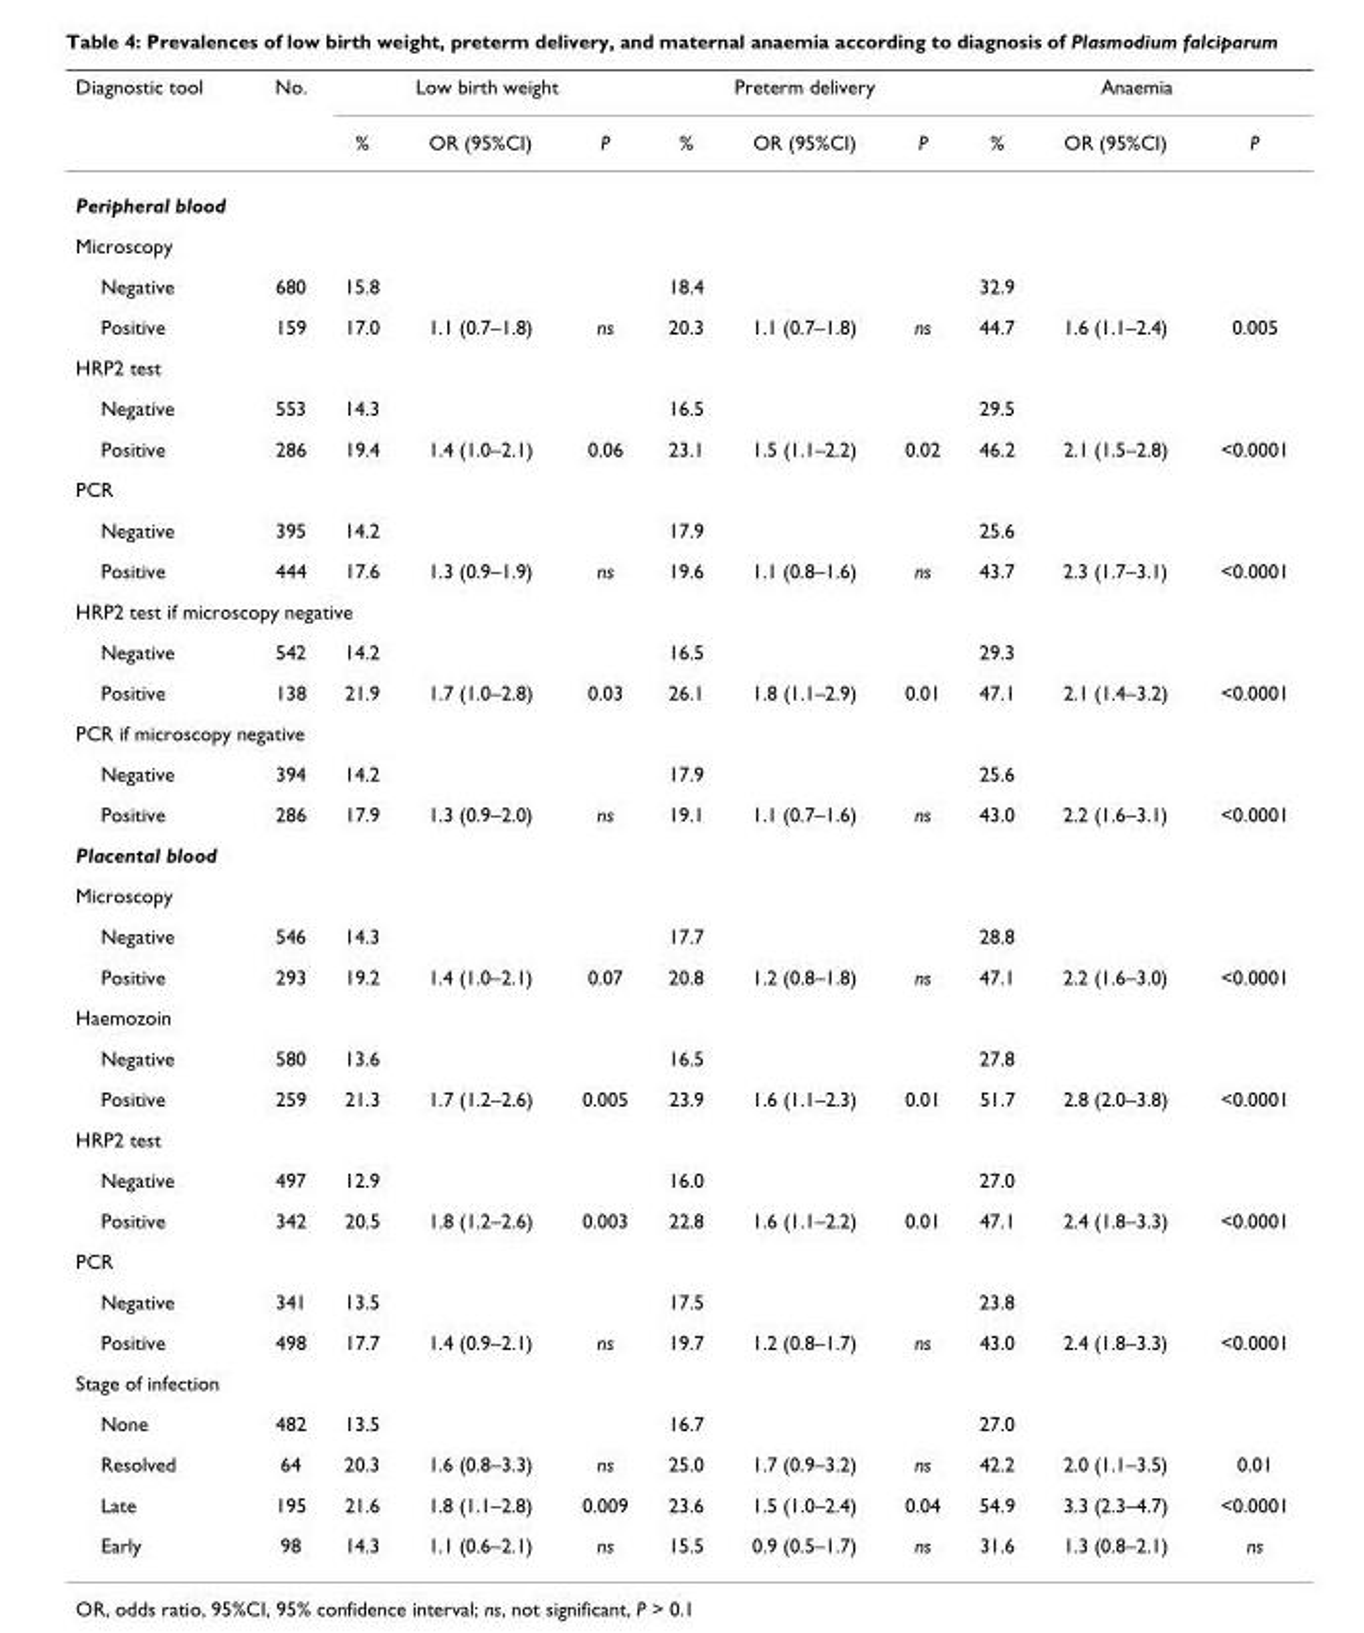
<table><thead><tr><td rowspan="2">Diagnostic tool</td><td rowspan="2">No.</td><td colspan="3">Low birth weight</td><td colspan="3">Preterm delivery</td><td colspan="3">Anaemia</td></tr><tr><td>%</td><td>OR (95%CI)</td><td>P</td><td>%</td><td>OR (95%CI)</td><td>P</td><td>%</td><td>OR (95%CI)</td><td>P</td></tr></thead><tbody><tr><td colspan="11">Peripheral blood</td></tr><tr><td colspan="11">Microscopy</td></tr><tr><td>Negative</td><td>680</td><td>15.8</td><td></td><td></td><td>18.4</td><td></td><td></td><td>32.9</td><td></td><td></td></tr><tr><td>Positive</td><td>159</td><td>17.0</td><td>1.1 (0.7–1.8)</td><td>ns</td><td>20.3</td><td>1.1 (0.7–1.8)</td><td>ns</td><td>44.7</td><td>1.6 (1.1–2.4)</td><td>0.005</td></tr><tr><td colspan="11">HRP2 test</td></tr><tr><td>Negative</td><td>553</td><td>14.3</td><td></td><td></td><td>16.5</td><td></td><td></td><td>29.5</td><td></td><td></td></tr><tr><td>Positive</td><td>286</td><td>19.4</td><td>1.4 (1.0–2.1)</td><td>0.06</td><td>23.1</td><td>1.5 (1.1–2.2)</td><td>0.02</td><td>46.2</td><td>2.1 (1.5–2.8)</td><td>&lt;0.0001</td></tr><tr><td colspan="11">PCR</td></tr><tr><td>Negative</td><td>395</td><td>14.2</td><td></td><td></td><td>17.9</td><td></td><td></td><td>25.6</td><td></td><td></td></tr><tr><td>Positive</td><td>444</td><td>17.6</td><td>1.3 (0.9–1.9)</td><td>ns</td><td>19.6</td><td>1.1 (0.8–1.6)</td><td>ns</td><td>43.7</td><td>2.3 (1.7–3.1)</td><td>&lt;0.0001</td></tr><tr><td colspan="11">HRP2 test if microscopy negative</td></tr><tr><td>Negative</td><td>542</td><td>14.2</td><td></td><td></td><td>16.5</td><td></td><td></td><td>29.3</td><td></td><td></td></tr><tr><td>Positive</td><td>138</td><td>21.9</td><td>1.7 (1.0–2.8)</td><td>0.03</td><td>26.1</td><td>1.8 (1.1–2.9)</td><td>0.01</td><td>47.1</td><td>2.1 (1.4–3.2)</td><td>&lt;0.0001</td></tr><tr><td colspan="11">PCR if microscopy negative</td></tr><tr><td>Negative</td><td>394</td><td>14.2</td><td></td><td></td><td>17.9</td><td></td><td></td><td>25.6</td><td></td><td></td></tr><tr><td>Positive</td><td>286</td><td>17.9</td><td>1.3 (0.9–2.0)</td><td>ns</td><td>19.1</td><td>1.1 (0.7–1.6)</td><td>ns</td><td>43.0</td><td>2.2 (1.6–3.1)</td><td>&lt;0.0001</td></tr><tr><td colspan="11">Placental blood</td></tr><tr><td colspan="11">Microscopy</td></tr><tr><td>Negative</td><td>546</td><td>14.3</td><td></td><td></td><td>17.7</td><td></td><td></td><td>28.8</td><td></td><td></td></tr><tr><td>Positive</td><td>293</td><td>19.2</td><td>1.4 (1.0–2.1)</td><td>0.07</td><td>20.8</td><td>1.2 (0.8–1.8)</td><td>ns</td><td>47.1</td><td>2.2 (1.6–3.0)</td><td>&lt;0.0001</td></tr><tr><td colspan="11">Haemozoin</td></tr><tr><td>Negative</td><td>580</td><td>13.6</td><td></td><td></td><td>16.5</td><td></td><td></td><td>27.8</td><td></td><td></td></tr><tr><td>Positive</td><td>259</td><td>21.3</td><td>1.7 (1.2–2.6)</td><td>0.005</td><td>23.9</td><td>1.6 (1.1–2.3)</td><td>0.01</td><td>51.7</td><td>2.8 (2.0–3.8)</td><td>&lt;0.0001</td></tr><tr><td colspan="11">HRP2 test</td></tr><tr><td>Negative</td><td>497</td><td>12.9</td><td></td><td></td><td>16.0</td><td></td><td></td><td>27.0</td><td></td><td></td></tr><tr><td>Positive</td><td>342</td><td>20.5</td><td>1.8 (1.2–2.6)</td><td>0.003</td><td>22.8</td><td>1.6 (1.1–2.2)</td><td>0.01</td><td>47.1</td><td>2.4 (1.8–3.3)</td><td>&lt;0.0001</td></tr><tr><td colspan="11">PCR</td></tr><tr><td>Negative</td><td>341</td><td>13.5</td><td></td><td></td><td>17.5</td><td></td><td></td><td>23.8</td><td></td><td></td></tr><tr><td>Positive</td><td>498</td><td>17.7</td><td>1.4 (0.9–2.1)</td><td>ns</td><td>19.7</td><td>1.2 (0.8–1.7)</td><td>ns</td><td>43.0</td><td>2.4 (1.8–3.3)</td><td>&lt;0.0001</td></tr><tr><td colspan="11">Stage of infection</td></tr><tr><td>None</td><td>482</td><td>13.5</td><td></td><td></td><td>16.7</td><td></td><td></td><td>27.0</td><td></td><td></td></tr><tr><td>Resolved</td><td>64</td><td>20.3</td><td>1.6 (0.8–3.3)</td><td>ns</td><td>25.0</td><td>1.7 (0.9–3.2)</td><td>ns</td><td>42.2</td><td>2.0 (1.1–3.5)</td><td>0.01</td></tr><tr><td>Late</td><td>195</td><td>21.6</td><td>1.8 (1.1–2.8)</td><td>0.009</td><td>23.6</td><td>1.5 (1.0–2.4)</td><td>0.04</td><td>54.9</td><td>3.3 (2.3–4.7)</td><td>&lt;0.0001</td></tr><tr><td>Early</td><td>98</td><td>14.3</td><td>1.1 (0.6–2.1)</td><td>ns</td><td>15.5</td><td>0.9 (0.5–1.7)</td><td>ns</td><td>31.6</td><td>1.3 (0.8–2.1)</td><td>ns</td></tr></tbody></table>